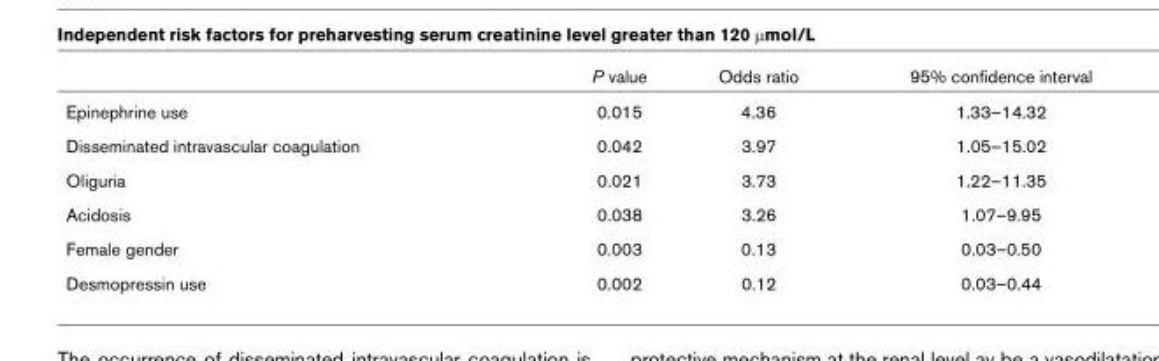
<table><thead><tr><td></td><td>P value</td><td>Odds ratio</td><td>95% confidence interval</td></tr></thead><tbody><tr><td>Epinephrine use</td><td>0.015</td><td>4.36</td><td>1.33–14.32</td></tr><tr><td>Disseminated intravascular coagulation</td><td>0.042</td><td>3.97</td><td>1.05–15.02</td></tr><tr><td>Oliguria</td><td>0.021</td><td>3.73</td><td>1.22–11.35</td></tr><tr><td>Acidosis</td><td>0.038</td><td>3.26</td><td>1.07–9.95</td></tr><tr><td>Female gender</td><td>0.003</td><td>0.13</td><td>0.03–0.50</td></tr><tr><td>Desmopressin use</td><td>0.002</td><td>0.12</td><td>0.03–0.44</td></tr></tbody></table>